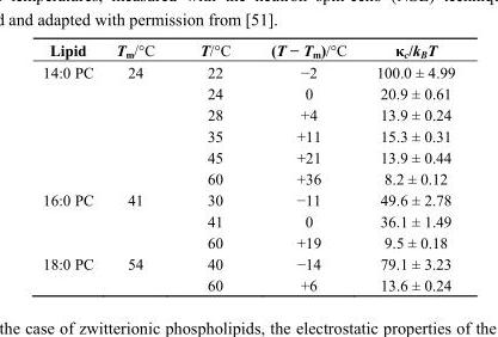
<table><thead><tr><td>Lipid</td><td>T<sub>m</sub>/°C</td><td>T/°C</td><td>(T − T<sub>m</sub>)/°C</td><td>κ<sub>c</sub>/k<sub>B</sub>T</td></tr></thead><tbody><tr><td rowspan="6">14:0 PC</td><td>24</td><td>22</td><td>−2</td><td>100.0 ± 4.99</td></tr><tr><td></td><td>24</td><td>0</td><td>20.9 ± 0.61</td></tr><tr><td></td><td>28</td><td>+4</td><td>13.9 ± 0.24</td></tr><tr><td></td><td>35</td><td>+11</td><td>15.3 ± 0.31</td></tr><tr><td></td><td>45</td><td>+21</td><td>13.9 ± 0.44</td></tr><tr><td></td><td>60</td><td>+36</td><td>8.2 ± 0.12</td></tr><tr><td rowspan="3">16:0 PC</td><td>41</td><td>30</td><td>−11</td><td>49.6 ± 2.78</td></tr><tr><td></td><td>41</td><td>0</td><td>36.1 ± 1.49</td></tr><tr><td></td><td>60</td><td>+19</td><td>9.5 ± 0.18</td></tr><tr><td rowspan="2">18:0 PC</td><td>54</td><td>40</td><td>−14</td><td>79.1 ± 3.23</td></tr><tr><td></td><td>60</td><td>+6</td><td>13.6 ± 0.24</td></tr></tbody></table>